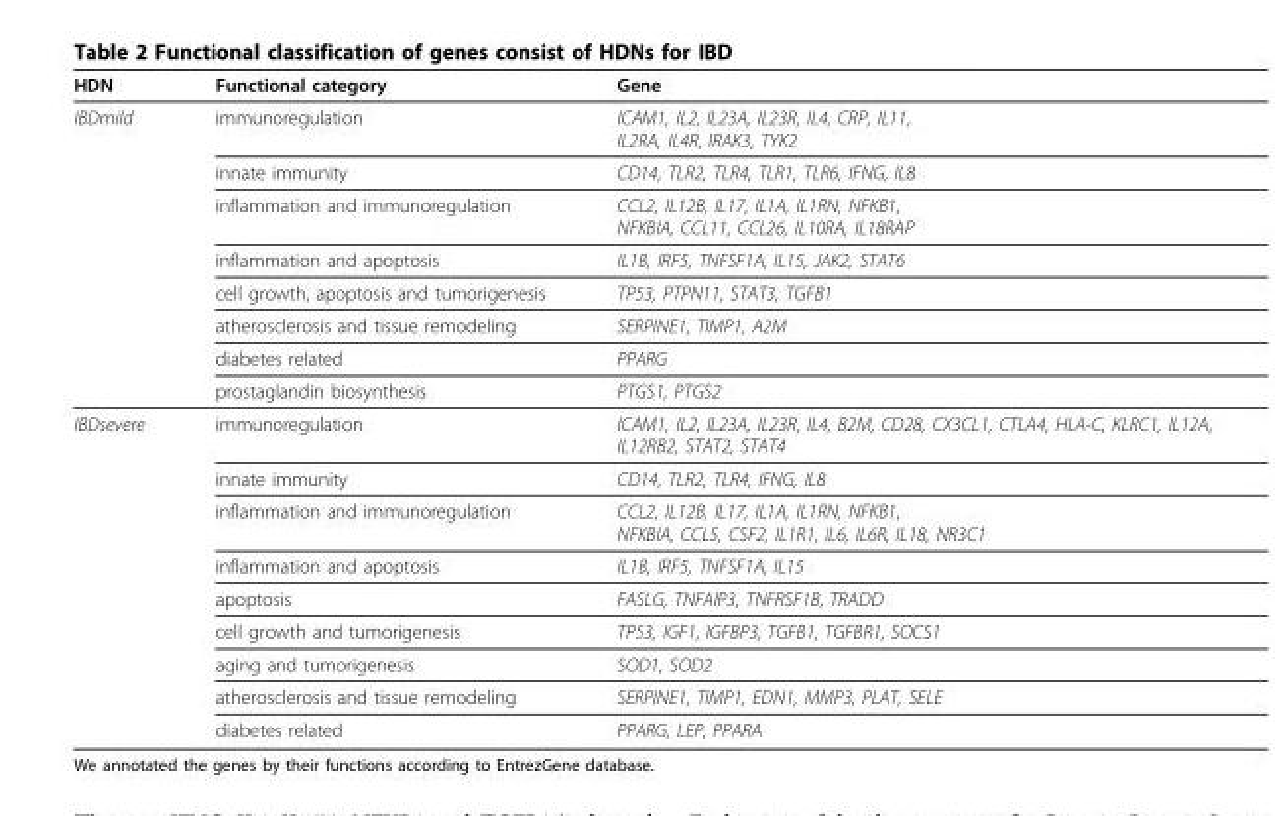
<table><thead><tr><td>HDN</td><td>Functional category</td><td>Gene</td></tr></thead><tbody><tr><td rowspan="8">IBDmild</td><td>immunoregulation</td><td>ICAM1, IL2, IL23A, IL23R, IL4, CRP, IL11, IL2RA, IL4R, IRAK3, TYK2</td></tr><tr><td>innate immunity</td><td>CD14, TLR2, TLR4, TLR1, TLR6, IFNG, IL8</td></tr><tr><td>inflammation and immunoregulation</td><td>CCL2, IL12B, IL17, IL1A, IL1RN, NFKB1, NFKBIA, CCL11, CCL26, IL10RA, IL18RAP</td></tr><tr><td>inflammation and apoptosis</td><td>IL1B, IRF5, TNFSF1A, IL15, JAK2, STAT6</td></tr><tr><td>cell growth, apoptosis and tumorigenesis</td><td>TP53, PTPN11, STAT3, TGFB1</td></tr><tr><td>atherosclerosis and tissue remodeling</td><td>SERPINE1, TIMP1, A2M</td></tr><tr><td>diabetes related</td><td>PPARG</td></tr><tr><td>prostaglandin biosynthesis</td><td>PTGS1, PTGS2</td></tr><tr><td rowspan="9">IBDsevere</td><td>immunoregulation</td><td>ICAM1, IL2, IL23A, IL23R, IL4, B2M, CD28, CX3CL1, CTLA4, HLA-C, KLRC1, IL12A, IL12RB2, STAT2, STAT4</td></tr><tr><td>innate immunity</td><td>CD14, TLR2, TLR4, IFNG, IL8</td></tr><tr><td>inflammation and immunoregulation</td><td>CCL2, IL12B, IL17, IL1A, IL1RN, NFKB1, NFKBIA, CCL5, CSF2, IL1R1, IL6, IL6R, IL18, NR3C1</td></tr><tr><td>inflammation and apoptosis</td><td>IL1B, IRF5, TNFSF1A, IL15</td></tr><tr><td>apoptosis</td><td>FASLG, TNFAIP3, TNFRSF1B, TRADD</td></tr><tr><td>cell growth and tumorigenesis</td><td>TP53, IGF1, IGFBP3, TGFB1, TGFBR1, SOCS1</td></tr><tr><td>aging and tumorigenesis</td><td>SOD1, SOD2</td></tr><tr><td>atherosclerosis and tissue remodeling</td><td>SERPINE1, TIMP1, EDN1, MMP3, PLAT, SELE</td></tr><tr><td>diabetes related</td><td>PPARG, LEP, PPARA</td></tr></tbody></table>